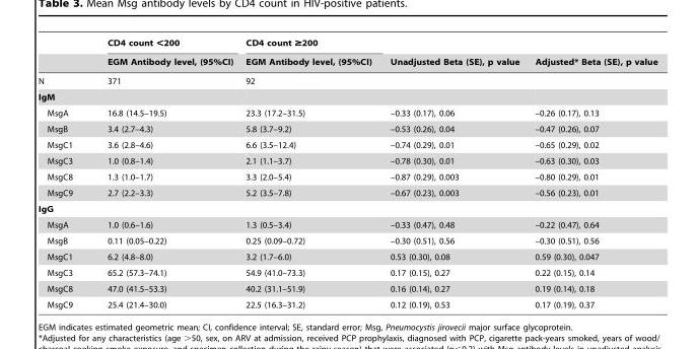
<table><thead><tr><td rowspan="2"></td><td rowspan="2">CD4 count &lt;200 EGM Antibody level, (95%CI)</td><td rowspan="2">CD4 count ≥200 EGM Antibody level, (95%CI)</td><td rowspan="2">Unadjusted Beta (SE), p value</td><td rowspan="2">Adjusted* Beta (SE), p value</td></tr><tr></tr></thead><tbody><tr><td>N</td><td>371</td><td>92</td><td></td><td></td></tr><tr><td colspan="5">IgM</td></tr><tr><td>MsgA</td><td>16.8 (14.5–19.5)</td><td>23.3 (17.2–31.5)</td><td>–0.33 (0.17), 0.06</td><td>–0.26 (0.17), 0.13</td></tr><tr><td>MsgB</td><td>3.4 (2.7–4.3)</td><td>5.8 (3.7–9.2)</td><td>–0.53 (0.26), 0.04</td><td>–0.47 (0.26), 0.07</td></tr><tr><td>MsgC1</td><td>3.6 (2.8–4.6)</td><td>6.6 (3.5–12.4)</td><td>–0.74 (0.29), 0.01</td><td>–0.65 (0.29), 0.02</td></tr><tr><td>MsgC3</td><td>1.0 (0.8–1.4)</td><td>2.1 (1.1–3.7)</td><td>–0.78 (0.30), 0.01</td><td>–0.63 (0.30), 0.03</td></tr><tr><td>MsgC8</td><td>1.3 (1.0–1.7)</td><td>3.3 (2.0–5.4)</td><td>–0.87 (0.29), 0.003</td><td>–0.80 (0.29), 0.01</td></tr><tr><td>MsgC9</td><td>2.7 (2.2–3.3)</td><td>5.2 (3.5–7.8)</td><td>–0.67 (0.23), 0.003</td><td>–0.56 (0.23), 0.01</td></tr><tr><td colspan="5">IgG</td></tr><tr><td>MsgA</td><td>1.0 (0.6–1.6)</td><td>1.3 (0.5–3.4)</td><td>–0.33 (0.47), 0.48</td><td>–0.22 (0.47), 0.64</td></tr><tr><td>MsgB</td><td>0.11 (0.05–0.22)</td><td>0.25 (0.09–0.72)</td><td>–0.30 (0.51), 0.56</td><td>–0.30 (0.51), 0.56</td></tr><tr><td>MsgC1</td><td>6.2 (4.8–8.0)</td><td>3.2 (1.7–6.0)</td><td>0.53 (0.30), 0.08</td><td>0.59 (0.30), 0.047</td></tr><tr><td>MsgC3</td><td>65.2 (57.3–74.1)</td><td>54.9 (41.0–73.3)</td><td>0.17 (0.15), 0.27</td><td>0.22 (0.15), 0.14</td></tr><tr><td>MsgC8</td><td>47.0 (41.5–53.3)</td><td>40.2 (31.1–51.9)</td><td>0.16 (0.14), 0.27</td><td>0.19 (0.14), 0.18</td></tr><tr><td>MsgC9</td><td>25.4 (21.4–30.0)</td><td>22.5 (16.3–31.2)</td><td>0.12 (0.19), 0.53</td><td>0.17 (0.19), 0.37</td></tr></tbody></table>